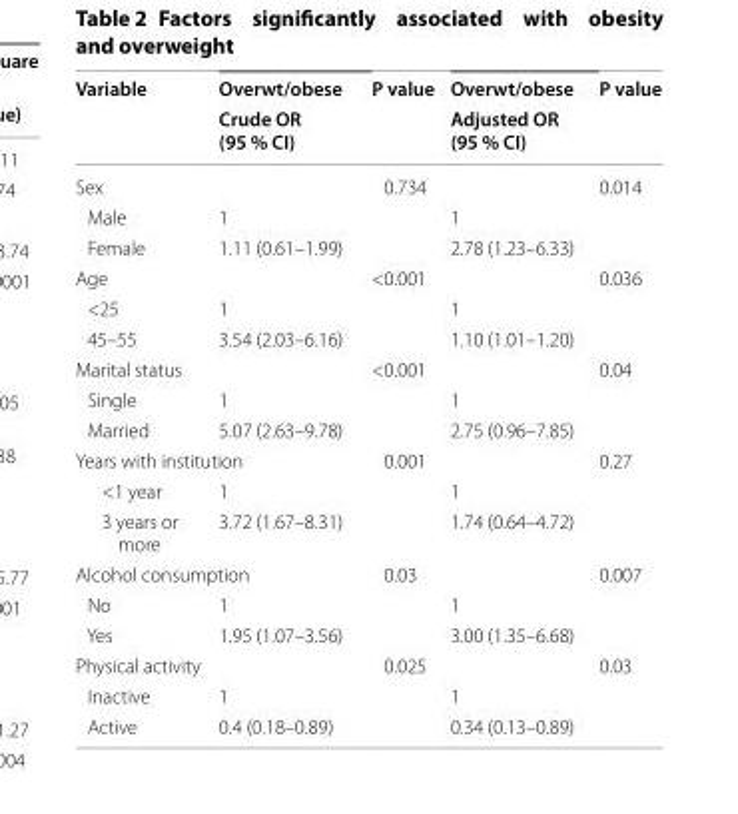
<table><thead><tr><td rowspan="2">Variable</td><td rowspan="2">Overwt/obese Crude OR (95 % CI)</td><td rowspan="2">P value</td><td rowspan="2">Overwt/obese Adjusted OR (95 % CI)</td><td rowspan="2">P value</td></tr><tr></tr></thead><tbody><tr><td>Sex</td><td></td><td>0.734</td><td></td><td>0.014</td></tr><tr><td>Male</td><td>1</td><td></td><td>1</td><td></td></tr><tr><td>Female</td><td>1.11 (0.61–1.99)</td><td></td><td>2.78 (1.23–6.33)</td><td></td></tr><tr><td>Age</td><td></td><td>&lt;0.001</td><td></td><td>0.036</td></tr><tr><td>&lt;25</td><td>1</td><td></td><td>1</td><td></td></tr><tr><td>45–55</td><td>3.54 (2.03–6.16)</td><td></td><td>1.10 (1.01–1.20)</td><td></td></tr><tr><td>Marital status</td><td></td><td>&lt;0.001</td><td></td><td>0.04</td></tr><tr><td>Single</td><td>1</td><td></td><td>1</td><td></td></tr><tr><td>Married</td><td>5.07 (2.63–9.78)</td><td></td><td>2.75 (0.96–7.85)</td><td></td></tr><tr><td colspan="2">Years with institution</td><td>0.001</td><td></td><td>0.27</td></tr><tr><td>&lt;1 year</td><td>1</td><td></td><td>1</td><td></td></tr><tr><td>3 years or more</td><td>3.72 (1.67–8.31)</td><td></td><td>1.74 (0.64–4.72)</td><td></td></tr><tr><td colspan="2">Alcohol consumption</td><td>0.03</td><td></td><td>0.007</td></tr><tr><td>No</td><td>1</td><td></td><td>1</td><td></td></tr><tr><td>Yes</td><td>1.95 (1.07–3.56)</td><td></td><td>3.00 (1.35–6.68)</td><td></td></tr><tr><td>Physical activity</td><td></td><td>0.025</td><td></td><td>0.03</td></tr><tr><td>Inactive</td><td>1</td><td></td><td>1</td><td></td></tr><tr><td>Active</td><td>0.4 (0.18–0.89)</td><td></td><td>0.34 (0.13–0.89)</td><td></td></tr></tbody></table>